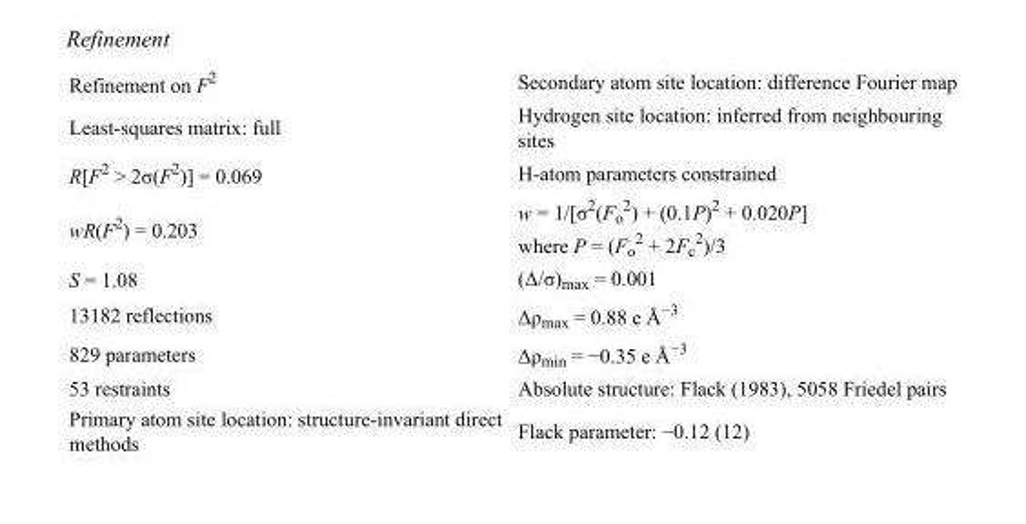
<table><tbody><tr><td>Refinement on F<sup>2</sup></td><td>Secondary atom site location: difference Fourier map</td></tr><tr><td>Least-squares matrix: full</td><td>Hydrogen site location: inferred from neighbouring sites</td></tr><tr><td>R[F<sup>2</sup> &gt; 2σ(F<sup>2</sup>)] = 0.069</td><td>H-atom parameters constrained</td></tr><tr><td>wR(F<sup>2</sup>) = 0.203</td><td>w = 1/[σ<sup>2</sup>(F<sub>o</sub> <sup>2</sup>) + (0.1P)<sup>2</sup> + 0.020P] where P = (F<sub>o</sub> <sup>2</sup> + 2F<sub>c</sub> <sup>2</sup>)/3</td></tr><tr><td>S = 1.08</td><td>(Δ/σ)<sub>max</sub> = 0.001</td></tr><tr><td>13182 reflections</td><td>Δρ<sub>max</sub> = 0.88 e Å<sup>−3</sup></td></tr><tr><td>829 parameters</td><td>Δρ<sub>min</sub> = −0.35 e Å<sup>−3</sup></td></tr><tr><td>53 restraints</td><td>Absolute structure: Flack (1983), 5058 Friedel pairs</td></tr><tr><td>Primary atom site location: structure-invariant direct methods</td><td>Flack parameter: −0.12 (12)</td></tr></tbody></table>